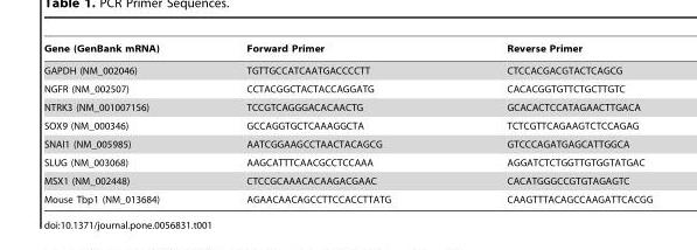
<table><thead><tr><td>Gene (GenBank mRNA)</td><td>Forward Primer</td><td>Reverse Primer</td></tr></thead><tbody><tr><td>GAPDH (NM_002046)</td><td>TGTTGCCATCAATGACCCCTT</td><td>CTCCACGACGTACTCAGCG</td></tr><tr><td>NGFR (NM_002507)</td><td>CCTACGGCTACTACCAGGATG</td><td>CACACGGTGTTCTGCTTGTC</td></tr><tr><td>NTRK3 (NM_001007156)</td><td>TCCGTCAGGGACACAACTG</td><td>GCACACTCCATAGAACTTGACA</td></tr><tr><td>SOX9 (NM_000346)</td><td>GCCAGGTGCTCAAAGGCTA</td><td>TCTCGTTCAGAAGTCTCCAGAG</td></tr><tr><td>SNAI1 (NM_005985)</td><td>AATCGGAAGCCTAACTACAGCG</td><td>GTCCCAGATGAGCATTGGCA</td></tr><tr><td>SLUG (NM_003068)</td><td>AAGCATTTCAACGCCTCCAAA</td><td>AGGATCTCTGGTTGTGGTATGAC</td></tr><tr><td>MSX1 (NM_002448)</td><td>CTCCGCAAACACAAGACGAAC</td><td>CACATGGGCCGTGTAGAGTC</td></tr><tr><td>Mouse Tbp1 (NM_013684)</td><td>AGAACAACAGCCTTCCACCTTATG</td><td>CAAGTTTACAGCCAAGATTCACGG</td></tr></tbody></table>